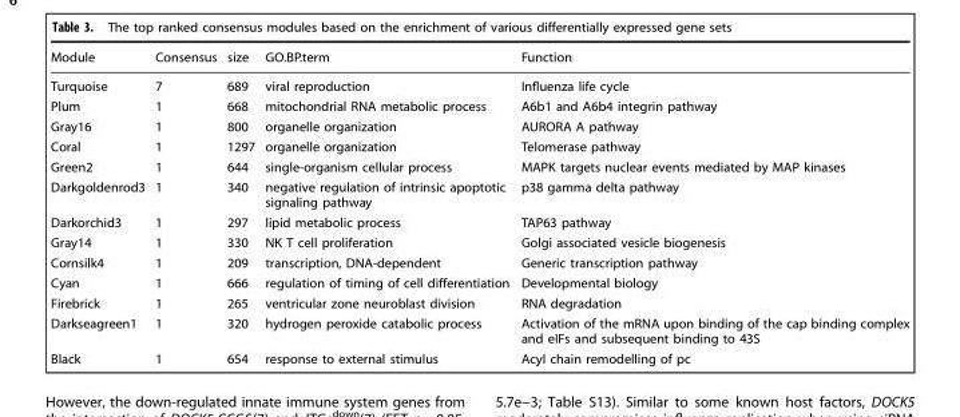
<table><thead><tr><td>Module</td><td>Consensus</td><td>size</td><td>GO.BP.term</td><td>Function</td></tr></thead><tbody><tr><td>Turquoise</td><td>7</td><td>689</td><td>viral reproduction</td><td>Influenza life cycle</td></tr><tr><td>Plum</td><td>1</td><td>668</td><td>mitochondrial RNA metabolic process</td><td>A6b1 and A6b4 integrin pathway</td></tr><tr><td>Gray16</td><td>1</td><td>800</td><td>organelle organization</td><td>AURORA A pathway</td></tr><tr><td>Coral</td><td>1</td><td>1297</td><td>organelle organization</td><td>Telomerase pathway</td></tr><tr><td>Green2</td><td>1</td><td>644</td><td>single-organism cellular process</td><td>MAPK targets nuclear events mediated by MAP kinases</td></tr><tr><td>Darkgoldenrod3</td><td>1</td><td>340</td><td>negative regulation of intrinsic apoptotic signaling pathway</td><td>p38 gamma delta pathway</td></tr><tr><td>Darkorchid3</td><td>1</td><td>297</td><td>lipid metabolic process</td><td>TAP63 pathway</td></tr><tr><td>Gray14</td><td>1</td><td>330</td><td>NK T cell proliferation</td><td>Golgi associated vesicle biogenesis</td></tr><tr><td>Cornsilk4</td><td>1</td><td>209</td><td>transcription, DNA-dependent</td><td>Generic transcription pathway</td></tr><tr><td>Cyan</td><td>1</td><td>666</td><td>regulation of timing of cell differentiation</td><td>Developmental biology</td></tr><tr><td>Firebrick</td><td>1</td><td>265</td><td>ventricular zone neuroblast division</td><td>RNA degradation</td></tr><tr><td>Darkseagreen1</td><td>1</td><td>320</td><td>hydrogen peroxide catabolic process</td><td>Activation of the mRNA upon binding of the cap binding complex and eIFs and subsequent binding to 43S</td></tr><tr><td>Black</td><td>1</td><td>654</td><td>response to external stimulus</td><td>Acyl chain remodelling of pc</td></tr></tbody></table>